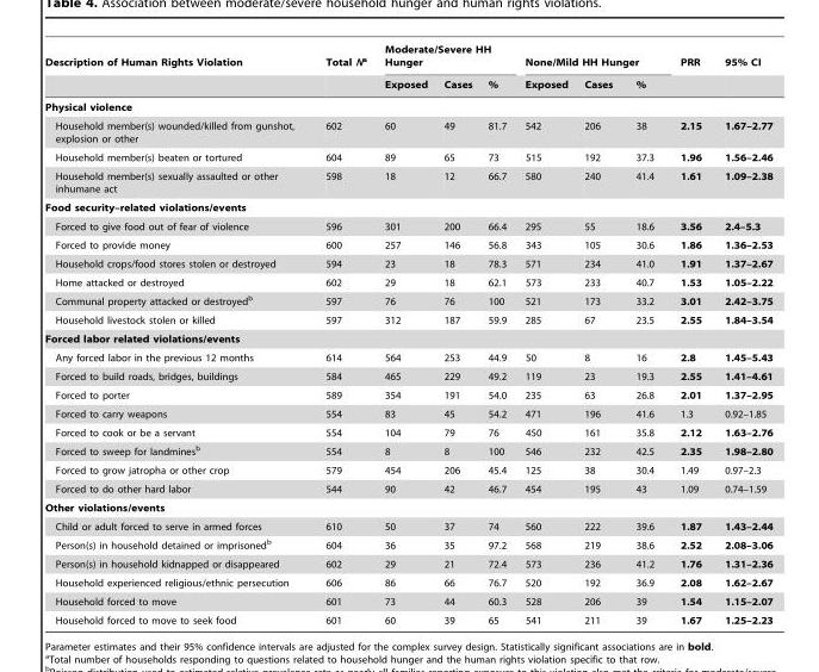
<table><thead><tr><td rowspan="2">Description of Human Rights Violation</td><td rowspan="2">Total Na</td><td colspan="3">Moderate/Severe HH Hunger</td><td colspan="3">None/Mild HH Hunger</td><td rowspan="2">PRR</td><td rowspan="2">95% CI</td></tr><tr><td>Exposed</td><td>Cases</td><td>%</td><td>Exposed</td><td>Cases</td><td>%</td></tr></thead><tbody><tr><td colspan="10">Physical violence</td></tr><tr><td>Household member(s) wounded/killed from gunshot, explosion or other</td><td>602</td><td>60</td><td>49</td><td>81.7</td><td>542</td><td>206</td><td>38</td><td>2.15</td><td>1.67–2.77</td></tr><tr><td>Household member(s) beaten or tortured</td><td>604</td><td>89</td><td>65</td><td>73</td><td>515</td><td>192</td><td>37.3</td><td>1.96</td><td>1.56–2.46</td></tr><tr><td>Household member(s) sexually assaulted or other inhumane act</td><td>598</td><td>18</td><td>12</td><td>66.7</td><td>580</td><td>240</td><td>41.4</td><td>1.61</td><td>1.09–2.38</td></tr><tr><td colspan="10">Food security–related violations/events</td></tr><tr><td>Forced to give food out of fear of violence</td><td>596</td><td>301</td><td>200</td><td>66.4</td><td>295</td><td>55</td><td>18.6</td><td>3.56</td><td>2.4–5.3</td></tr><tr><td>Forced to provide money</td><td>600</td><td>257</td><td>146</td><td>56.8</td><td>343</td><td>105</td><td>30.6</td><td>1.86</td><td>1.36–2.53</td></tr><tr><td>Household crops/food stores stolen or destroyed</td><td>594</td><td>23</td><td>18</td><td>78.3</td><td>571</td><td>234</td><td>41.0</td><td>1.91</td><td>1.37–2.67</td></tr><tr><td>Home attacked or destroyed</td><td>602</td><td>29</td><td>18</td><td>62.1</td><td>573</td><td>233</td><td>40.7</td><td>1.53</td><td>1.05–2.22</td></tr><tr><td>Communal property attacked or destroyed<sup>b</sup></td><td>597</td><td>76</td><td>76</td><td>100</td><td>521</td><td>173</td><td>33.2</td><td>3.01</td><td>2.42–3.75</td></tr><tr><td>Household livestock stolen or killed</td><td>597</td><td>312</td><td>187</td><td>59.9</td><td>285</td><td>67</td><td>23.5</td><td>2.55</td><td>1.84–3.54</td></tr><tr><td colspan="10">Forced labor related violations/events</td></tr><tr><td>Any forced labor in the previous 12 months</td><td>614</td><td>564</td><td>253</td><td>44.9</td><td>50</td><td>8</td><td>16</td><td>2.8</td><td>1.45–5.43</td></tr><tr><td>Forced to build roads, bridges, buildings</td><td>584</td><td>465</td><td>229</td><td>49.2</td><td>119</td><td>23</td><td>19.3</td><td>2.55</td><td>1.41–4.61</td></tr><tr><td>Forced to porter</td><td>589</td><td>354</td><td>191</td><td>54.0</td><td>235</td><td>63</td><td>26.8</td><td>2.01</td><td>1.37–2.95</td></tr><tr><td>Forced to carry weapons</td><td>554</td><td>83</td><td>45</td><td>54.2</td><td>471</td><td>196</td><td>41.6</td><td>1.3</td><td>0.92–1.85</td></tr><tr><td>Forced to cook or be a servant</td><td>554</td><td>104</td><td>79</td><td>76</td><td>450</td><td>161</td><td>35.8</td><td>2.12</td><td>1.63–2.76</td></tr><tr><td>Forced to sweep for landmines<sup>b</sup></td><td>554</td><td>8</td><td>8</td><td>100</td><td>546</td><td>232</td><td>42.5</td><td>2.35</td><td>1.98–2.80</td></tr><tr><td>Forced to grow jatropha or other crop</td><td>579</td><td>454</td><td>206</td><td>45.4</td><td>125</td><td>38</td><td>30.4</td><td>1.49</td><td>0.97–2.3</td></tr><tr><td>Forced to do other hard labor</td><td>544</td><td>90</td><td>42</td><td>46.7</td><td>454</td><td>195</td><td>43</td><td>1.09</td><td>0.74–1.59</td></tr><tr><td colspan="10">Other violations/events</td></tr><tr><td>Child or adult forced to serve in armed forces</td><td>610</td><td>50</td><td>37</td><td>74</td><td>560</td><td>222</td><td>39.6</td><td>1.87</td><td>1.43–2.44</td></tr><tr><td>Person(s) in household detained or imprisoned<sup>b</sup></td><td>604</td><td>36</td><td>35</td><td>97.2</td><td>568</td><td>219</td><td>38.6</td><td>2.52</td><td>2.08–3.06</td></tr><tr><td>Person(s) in household kidnapped or disappeared</td><td>602</td><td>29</td><td>21</td><td>72.4</td><td>573</td><td>236</td><td>41.2</td><td>1.76</td><td>1.31–2.36</td></tr><tr><td>Household experienced religious/ethnic persecution</td><td>606</td><td>86</td><td>66</td><td>76.7</td><td>520</td><td>192</td><td>36.9</td><td>2.08</td><td>1.62–2.67</td></tr><tr><td>Household forced to move</td><td>601</td><td>73</td><td>44</td><td>60.3</td><td>528</td><td>206</td><td>39</td><td>1.54</td><td>1.15–2.07</td></tr><tr><td>Household forced to move to seek food</td><td>601</td><td>60</td><td>39</td><td>65</td><td>541</td><td>211</td><td>39</td><td>1.67</td><td>1.25–2.23</td></tr></tbody></table>